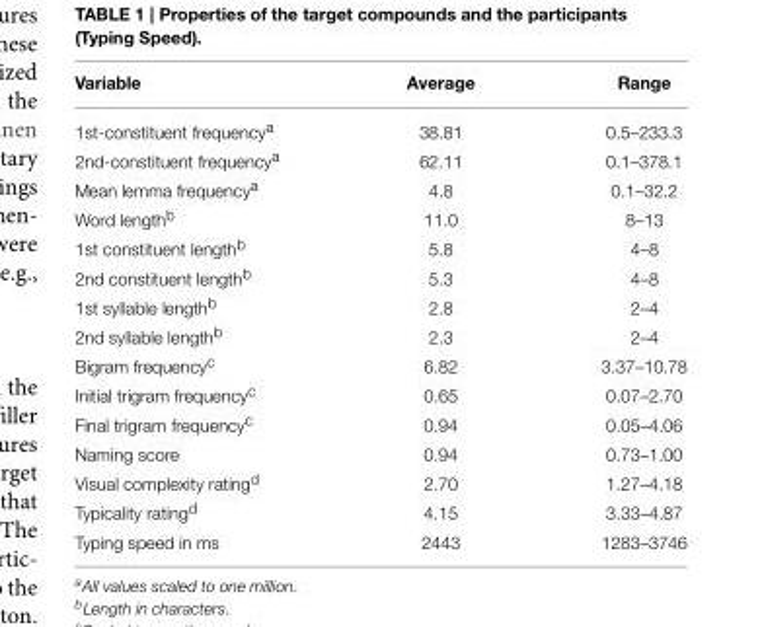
<table><thead><tr><td>Variable</td><td>Average</td><td>Range</td></tr></thead><tbody><tr><td>1st-constituent frequency<sup>a</sup></td><td>38.81</td><td>0.5–233.3</td></tr><tr><td>2nd-constituent frequency<sup>a</sup></td><td>62.11</td><td>0.1–378.1</td></tr><tr><td>Mean lemma frequency<sup>a</sup></td><td>4.8</td><td>0.1–32.2</td></tr><tr><td>Word length<sup>b</sup></td><td>11.0</td><td>8–13</td></tr><tr><td>1st constituent length<sup>b</sup></td><td>5.8</td><td>4–8</td></tr><tr><td>2nd constituent length<sup>b</sup></td><td>5.3</td><td>4–8</td></tr><tr><td>1st syllable length<sup>b</sup></td><td>2.8</td><td>2–4</td></tr><tr><td>2nd syllable length<sup>b</sup></td><td>2.3</td><td>2–4</td></tr><tr><td>Bigram frequency<sup>c</sup></td><td>6.82</td><td>3.37–10.78</td></tr><tr><td>Initial trigram frequency<sup>c</sup></td><td>0.65</td><td>0.07–2.70</td></tr><tr><td>Final trigram frequency<sup>c</sup></td><td>0.94</td><td>0.05–4.06</td></tr><tr><td>Naming score</td><td>0.94</td><td>0.73–1.00</td></tr><tr><td>Visual complexity rating<sup>d</sup></td><td>2.70</td><td>1.27–4.18</td></tr><tr><td>Typicality rating<sup>d</sup></td><td>4.15</td><td>3.33–4.87</td></tr><tr><td>Typing speed in ms</td><td>2443</td><td>1283–3746</td></tr></tbody></table>